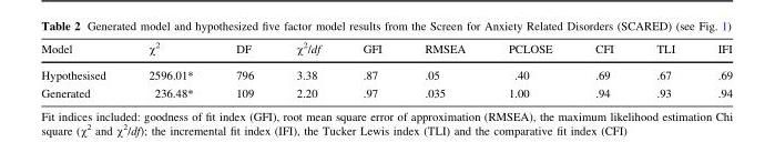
<table><thead><tr><td>Model</td><td>χ<sup>2</sup></td><td>DF</td><td>χ<sup>2</sup>/df</td><td>GFI</td><td>RMSEA</td><td>PCLOSE</td><td>CFI</td><td>TLI</td><td>IFI</td></tr></thead><tbody><tr><td>Hypothesised</td><td>2596.01*</td><td>796</td><td>3.38</td><td>.87</td><td>.05</td><td>.40</td><td>.69</td><td>.67</td><td>.69</td></tr><tr><td>Generated</td><td>236.48*</td><td>109</td><td>2.20</td><td>.97</td><td>.035</td><td>1.00</td><td>.94</td><td>.93</td><td>.94</td></tr></tbody></table>